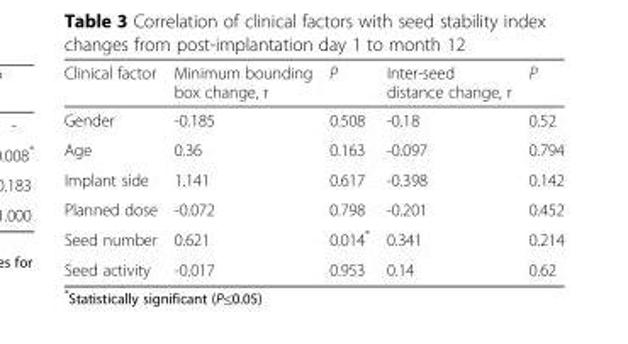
<table><thead><tr><td>Clinical factor</td><td>Minimum bounding box change, r</td><td>P</td><td>Inter-seed distance change, r</td><td>P</td></tr></thead><tbody><tr><td>Gender</td><td>-0.185</td><td>0.508</td><td>-0.18</td><td>0.52</td></tr><tr><td>Age</td><td>0.36</td><td>0.163</td><td>-0.097</td><td>0.794</td></tr><tr><td>Implant side</td><td>1.141</td><td>0.617</td><td>-0.398</td><td>0.142</td></tr><tr><td>Planned dose</td><td>-0.072</td><td>0.798</td><td>-0.201</td><td>0.452</td></tr><tr><td>Seed number</td><td>0.621</td><td>0.014*</td><td>0.341</td><td>0.214</td></tr><tr><td>Seed activity</td><td>-0.017</td><td>0.953</td><td>0.14</td><td>0.62</td></tr></tbody></table>